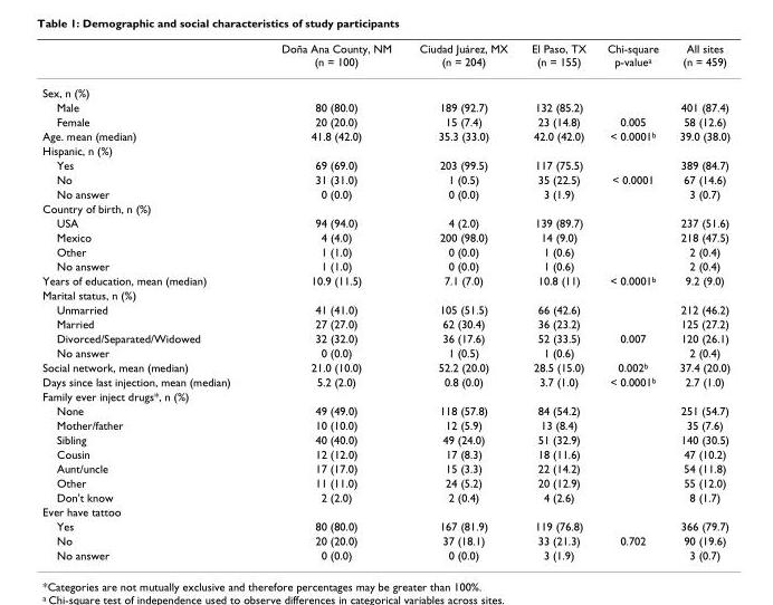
<table><thead><tr><td></td><td>Doña Ana County, NM (n = 100)</td><td>Ciudad Juárez, MX (n = 204)</td><td>El Paso, TX (n = 155)</td><td>Chi-square p-value<sup>a</sup></td><td>All sites (n = 459)</td></tr></thead><tbody><tr><td colspan="6">Sex, n (%)</td></tr><tr><td>Male</td><td>80 (80.0)</td><td>189 (92.7)</td><td>132 (85.2)</td><td></td><td>401 (87.4)</td></tr><tr><td>Female</td><td>20 (20.0)</td><td>15 (7.4)</td><td>23 (14.8)</td><td>0.005</td><td>58 (12.6)</td></tr><tr><td>Age. mean (median)</td><td>41.8 (42.0)</td><td>35.3 (33.0)</td><td>42.0 (42.0)</td><td>&lt; 0.0001<sup>b</sup></td><td>39.0 (38.0)</td></tr><tr><td colspan="6">Hispanic, n (%)</td></tr><tr><td>Yes</td><td>69 (69.0)</td><td>203 (99.5)</td><td>117 (75.5)</td><td></td><td>389 (84.7)</td></tr><tr><td>No</td><td>31 (31.0)</td><td>1 (0.5)</td><td>35 (22.5)</td><td>&lt; 0.0001</td><td>67 (14.6)</td></tr><tr><td>No answer</td><td>0 (0.0)</td><td>0 (0.0)</td><td>3 (1.9)</td><td></td><td>3 (0.7)</td></tr><tr><td colspan="6">Country of birth, n (%)</td></tr><tr><td>USA</td><td>94 (94.0)</td><td>4 (2.0)</td><td>139 (89.7)</td><td></td><td>237 (51.6)</td></tr><tr><td>Mexico</td><td>4 (4.0)</td><td>200 (98.0)</td><td>14 (9.0)</td><td></td><td>218 (47.5)</td></tr><tr><td>Other</td><td>1 (1.0)</td><td>0 (0.0)</td><td>1 (0.6)</td><td></td><td>2 (0.4)</td></tr><tr><td>No answer</td><td>1 (1.0)</td><td>0 (0.0)</td><td>1 (0.6)</td><td></td><td>2 (0.4)</td></tr><tr><td>Years of education, mean (median)</td><td>10.9 (11.5)</td><td>7.1 (7.0)</td><td>10.8 (11)</td><td>&lt; 0.0001<sup>b</sup></td><td>9.2 (9.0)</td></tr><tr><td colspan="6">Marital status, n (%)</td></tr><tr><td>Unmarried</td><td>41 (41.0)</td><td>105 (51.5)</td><td>66 (42.6)</td><td></td><td>212 (46.2)</td></tr><tr><td>Married</td><td>27 (27.0)</td><td>62 (30.4)</td><td>36 (23.2)</td><td></td><td>125 (27.2)</td></tr><tr><td>Divorced/Separated/Widowed</td><td>32 (32.0)</td><td>36 (17.6)</td><td>52 (33.5)</td><td>0.007</td><td>120 (26.1)</td></tr><tr><td>No answer</td><td>0 (0.0)</td><td>1 (0.5)</td><td>1 (0.6)</td><td></td><td>2 (0.4)</td></tr><tr><td>Social network, mean (median)</td><td>21.0 (10.0)</td><td>52.2 (20.0)</td><td>28.5 (15.0)</td><td>0.002<sup>b</sup></td><td>37.4 (20.0)</td></tr><tr><td>Days since last injection, mean (median)</td><td>5.2 (2.0)</td><td>0.8 (0.0)</td><td>3.7 (1.0)</td><td>&lt; 0.0001<sup>b</sup></td><td>2.7 (1.0)</td></tr><tr><td colspan="6">Family ever inject drugs*, n (%)</td></tr><tr><td>None</td><td>49 (49.0)</td><td>118 (57.8)</td><td>84 (54.2)</td><td></td><td>251 (54.7)</td></tr><tr><td>Mother/father</td><td>10 (10.0)</td><td>12 (5.9)</td><td>13 (8.4)</td><td></td><td>35 (7.6)</td></tr><tr><td>Sibling</td><td>40 (40.0)</td><td>49 (24.0)</td><td>51 (32.9)</td><td></td><td>140 (30.5)</td></tr><tr><td>Cousin</td><td>12 (12.0)</td><td>17 (8.3)</td><td>18 (11.6)</td><td></td><td>47 (10.2)</td></tr><tr><td>Aunt/uncle</td><td>17 (17.0)</td><td>15 (3.3)</td><td>22 (14.2)</td><td></td><td>54 (11.8)</td></tr><tr><td>Other</td><td>11 (11.0)</td><td>24 (5.2)</td><td>20 (12.9)</td><td></td><td>55 (12.0)</td></tr><tr><td>Don&#x27;t know</td><td>2 (2.0)</td><td>2 (0.4)</td><td>4 (2.6)</td><td></td><td>8 (1.7)</td></tr><tr><td colspan="6">Ever have tattoo</td></tr><tr><td>Yes</td><td>80 (80.0)</td><td>167 (81.9)</td><td>119 (76.8)</td><td></td><td>366 (79.7)</td></tr><tr><td>No</td><td>20 (20.0)</td><td>37 (18.1)</td><td>33 (21.3)</td><td>0.702</td><td>90 (19.6)</td></tr><tr><td>No answer</td><td>0 (0.0)</td><td>0 (0.0)</td><td>3 (1.9)</td><td></td><td>3 (0.7)</td></tr></tbody></table>